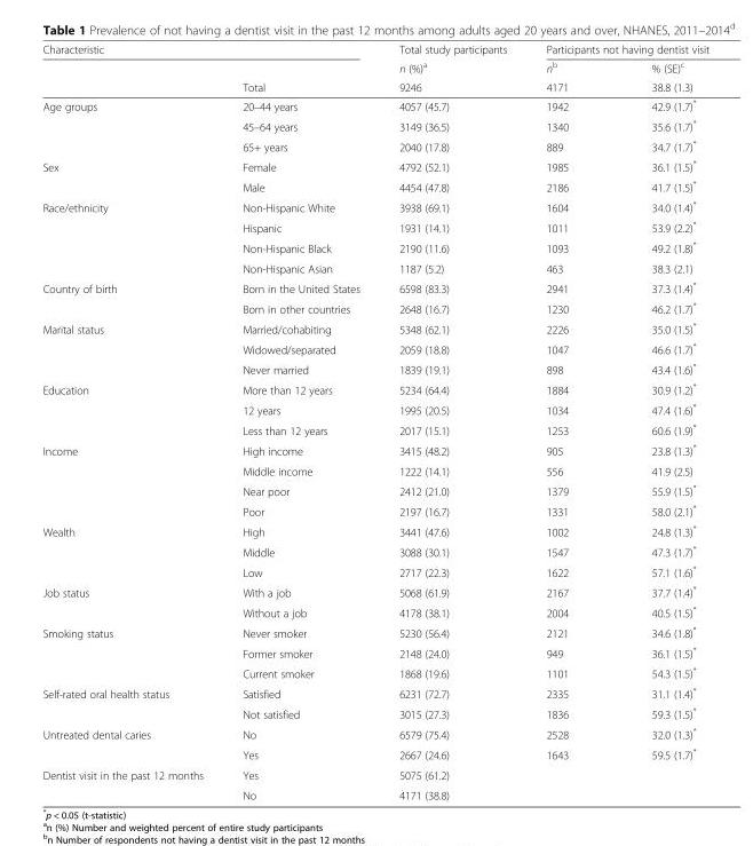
<table><thead><tr><td colspan="2">Characteristic</td><td rowspan="3">Total study participants n (%)<sup>a</sup> 9246</td><td colspan="2">Participants not having dentist visit</td></tr><tr><td rowspan="2"></td><td rowspan="2">Total</td><td rowspan="2">n<sup>b</sup> 4171</td><td rowspan="2">% (SE)<sup>c</sup> 38.8 (1.3)</td></tr><tr></tr></thead><tbody><tr><td rowspan="3">Age groups</td><td>20–44 years</td><td>4057 (45.7)</td><td>1942</td><td>42.9 (1.7)*</td></tr><tr><td>45–64 years</td><td>3149 (36.5)</td><td>1340</td><td>35.6 (1.7)*</td></tr><tr><td>65+ years</td><td>2040 (17.8)</td><td>889</td><td>34.7 (1.7)*</td></tr><tr><td rowspan="2">Sex</td><td>Female</td><td>4792 (52.1)</td><td>1985</td><td>36.1 (1.5)*</td></tr><tr><td>Male</td><td>4454 (47.8)</td><td>2186</td><td>41.7 (1.5)*</td></tr><tr><td rowspan="4">Race/ethnicity</td><td>Non-Hispanic White</td><td>3938 (69.1)</td><td>1604</td><td>34.0 (1.4)*</td></tr><tr><td>Hispanic</td><td>1931 (14.1)</td><td>1011</td><td>53.9 (2.2)*</td></tr><tr><td>Non-Hispanic Black</td><td>2190 (11.6)</td><td>1093</td><td>49.2 (1.8)*</td></tr><tr><td>Non-Hispanic Asian</td><td>1187 (5.2)</td><td>463</td><td>38.3 (2.1)</td></tr><tr><td rowspan="2">Country of birth</td><td>Born in the United States</td><td>6598 (83.3)</td><td>2941</td><td>37.3 (1.4)*</td></tr><tr><td>Born in other countries</td><td>2648 (16.7)</td><td>1230</td><td>46.2 (1.7)*</td></tr><tr><td rowspan="3">Marital status</td><td>Married/cohabiting</td><td>5348 (62.1)</td><td>2226</td><td>35.0 (1.5)*</td></tr><tr><td>Widowed/separated</td><td>2059 (18.8)</td><td>1047</td><td>46.6 (1.7)*</td></tr><tr><td>Never married</td><td>1839 (19.1)</td><td>898</td><td>43.4 (1.6)*</td></tr><tr><td rowspan="3">Education</td><td>More than 12 years</td><td>5234 (64.4)</td><td>1884</td><td>30.9 (1.2)*</td></tr><tr><td>12 years</td><td>1995 (20.5)</td><td>1034</td><td>47.4 (1.6)*</td></tr><tr><td>Less than 12 years</td><td>2017 (15.1)</td><td>1253</td><td>60.6 (1.9)*</td></tr><tr><td rowspan="4">Income</td><td>High income</td><td>3415 (48.2)</td><td>905</td><td>23.8 (1.3)*</td></tr><tr><td>Middle income</td><td>1222 (14.1)</td><td>556</td><td>41.9 (2.5)</td></tr><tr><td>Near poor</td><td>2412 (21.0)</td><td>1379</td><td>55.9 (1.5)*</td></tr><tr><td>Poor</td><td>2197 (16.7)</td><td>1331</td><td>58.0 (2.1)*</td></tr><tr><td rowspan="3">Wealth</td><td>High</td><td>3441 (47.6)</td><td>1002</td><td>24.8 (1.3)*</td></tr><tr><td>Middle</td><td>3088 (30.1)</td><td>1547</td><td>47.3 (1.7)*</td></tr><tr><td>Low</td><td>2717 (22.3)</td><td>1622</td><td>57.1 (1.6)*</td></tr><tr><td rowspan="2">Job status</td><td>With a job</td><td>5068 (61.9)</td><td>2167</td><td>37.7 (1.4)*</td></tr><tr><td>Without a job</td><td>4178 (38.1)</td><td>2004</td><td>40.5 (1.5)*</td></tr><tr><td rowspan="3">Smoking status</td><td>Never smoker</td><td>5230 (56.4)</td><td>2121</td><td>34.6 (1.8)*</td></tr><tr><td>Former smoker</td><td>2148 (24.0)</td><td>949</td><td>36.1 (1.5)*</td></tr><tr><td>Current smoker</td><td>1868 (19.6)</td><td>1101</td><td>54.3 (1.5)*</td></tr><tr><td rowspan="2">Self-rated oral health status</td><td>Satisfied</td><td>6231 (72.7)</td><td>2335</td><td>31.1 (1.4)*</td></tr><tr><td>Not satisfied</td><td>3015 (27.3)</td><td>1836</td><td>59.3 (1.5)*</td></tr><tr><td rowspan="2">Untreated dental caries</td><td>No</td><td>6579 (75.4)</td><td>2528</td><td>32.0 (1.3)*</td></tr><tr><td>Yes</td><td>2667 (24.6)</td><td>1643</td><td>59.5 (1.7)*</td></tr><tr><td rowspan="2">Dentist visit in the past 12 months</td><td>Yes</td><td>5075 (61.2)</td><td></td><td></td></tr><tr><td>No</td><td>4171 (38.8)</td><td></td><td></td></tr></tbody></table>